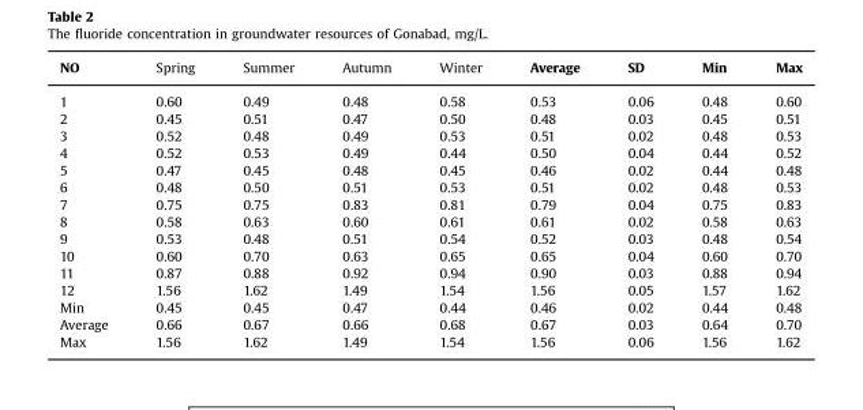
<table><thead><tr><td>NO</td><td>Spring</td><td>Summer</td><td>Autumn</td><td>Winter</td><td>Average</td><td>SD</td><td>Min</td><td>Max</td></tr></thead><tbody><tr><td>1</td><td>0.60</td><td>0.49</td><td>0.48</td><td>0.58</td><td>0.53</td><td>0.06</td><td>0.48</td><td>0.60</td></tr><tr><td>2</td><td>0.45</td><td>0.51</td><td>0.47</td><td>0.50</td><td>0.48</td><td>0.03</td><td>0.45</td><td>0.51</td></tr><tr><td>3</td><td>0.52</td><td>0.48</td><td>0.49</td><td>0.53</td><td>0.51</td><td>0.02</td><td>0.48</td><td>0.53</td></tr><tr><td>4</td><td>0.52</td><td>0.53</td><td>0.49</td><td>0.44</td><td>0.50</td><td>0.04</td><td>0.44</td><td>0.52</td></tr><tr><td>5</td><td>0.47</td><td>0.45</td><td>0.48</td><td>0.45</td><td>0.46</td><td>0.02</td><td>0.44</td><td>0.48</td></tr><tr><td>6</td><td>0.48</td><td>0.50</td><td>0.51</td><td>0.53</td><td>0.51</td><td>0.02</td><td>0.48</td><td>0.53</td></tr><tr><td>7</td><td>0.75</td><td>0.75</td><td>0.83</td><td>0.81</td><td>0.79</td><td>0.04</td><td>0.75</td><td>0.83</td></tr><tr><td>8</td><td>0.58</td><td>0.63</td><td>0.60</td><td>0.61</td><td>0.61</td><td>0.02</td><td>0.58</td><td>0.63</td></tr><tr><td>9</td><td>0.53</td><td>0.48</td><td>0.51</td><td>0.54</td><td>0.52</td><td>0.03</td><td>0.48</td><td>0.54</td></tr><tr><td>10</td><td>0.60</td><td>0.70</td><td>0.63</td><td>0.65</td><td>0.65</td><td>0.04</td><td>0.60</td><td>0.70</td></tr><tr><td>11</td><td>0.87</td><td>0.88</td><td>0.92</td><td>0.94</td><td>0.90</td><td>0.03</td><td>0.88</td><td>0.94</td></tr><tr><td>12</td><td>1.56</td><td>1.62</td><td>1.49</td><td>1.54</td><td>1.56</td><td>0.05</td><td>1.57</td><td>1.62</td></tr><tr><td>Min</td><td>0.45</td><td>0.45</td><td>0.47</td><td>0.44</td><td>0.46</td><td>0.02</td><td>0.44</td><td>0.48</td></tr><tr><td>Average</td><td>0.66</td><td>0.67</td><td>0.66</td><td>0.68</td><td>0.67</td><td>0.03</td><td>0.64</td><td>0.70</td></tr><tr><td>Max</td><td>1.56</td><td>1.62</td><td>1.49</td><td>1.54</td><td>1.56</td><td>0.06</td><td>1.56</td><td>1.62</td></tr></tbody></table>